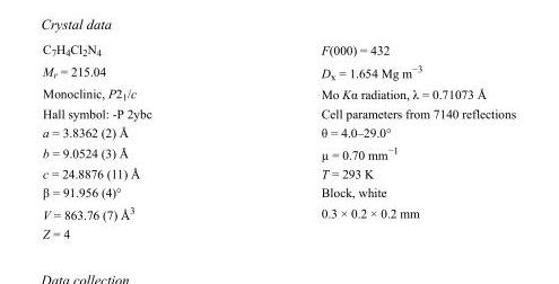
<table><tbody><tr><td>C<sub>7</sub>H<sub>4</sub>Cl<sub>2</sub>N<sub>4</sub></td><td>F(000) = 432</td></tr><tr><td>M<sub>r</sub> = 215.04</td><td>D<sub>x</sub> = 1.654 Mg m<sup>−3</sup></td></tr><tr><td>Monoclinic, P2<sub>1</sub>/c</td><td>Mo Kα radiation, λ = 0.71073 Å</td></tr><tr><td>Hall symbol: -P 2ybc</td><td>Cell parameters from 7140 reflections</td></tr><tr><td>a = 3.8362 (2) Å</td><td>θ = 4.0–29.0°</td></tr><tr><td>b = 9.0524 (3) Å</td><td>µ = 0.70 mm<sup>−1</sup></td></tr><tr><td>c = 24.8876 (11) Å</td><td>T = 293 K</td></tr><tr><td>β = 91.956 (4)°</td><td>Block, white</td></tr><tr><td>V = 863.76 (7) Å<sup>3</sup></td><td>0.3 × 0.2 × 0.2 mm</td></tr><tr><td>Z = 4</td><td></td></tr></tbody></table>